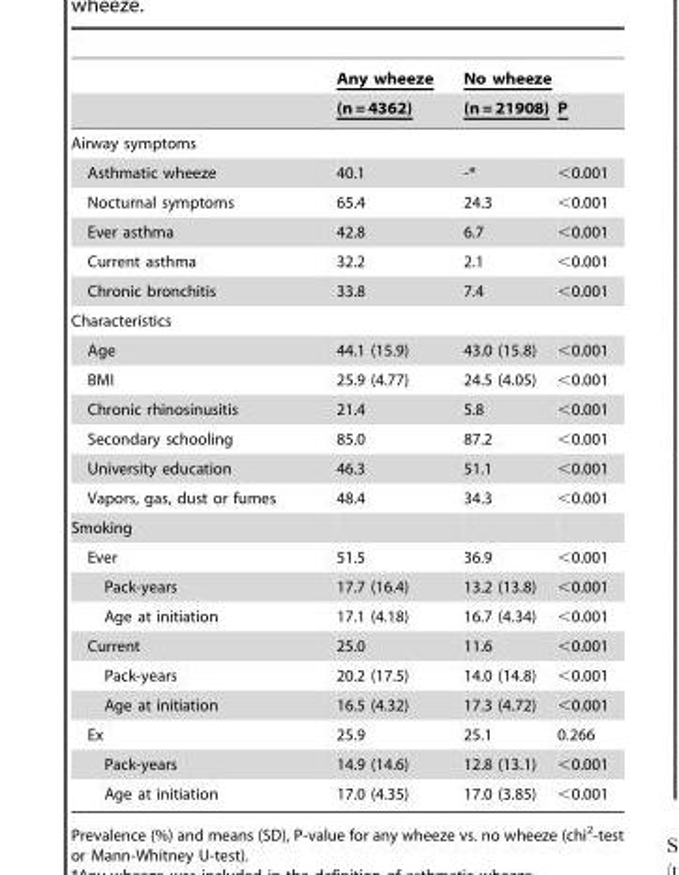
<table><thead><tr><td rowspan="2"></td><td rowspan="2">Any wheeze (n = 4362)</td><td rowspan="2">No wheeze (n = 21908)</td><td rowspan="2">P</td></tr><tr></tr></thead><tbody><tr><td colspan="4">Airway symptoms</td></tr><tr><td>Asthmatic wheeze</td><td>40.1</td><td>-*</td><td>&lt;0.001</td></tr><tr><td>Nocturnal symptoms</td><td>65.4</td><td>24.3</td><td>&lt;0.001</td></tr><tr><td>Ever asthma</td><td>42.8</td><td>6.7</td><td>&lt;0.001</td></tr><tr><td>Current asthma</td><td>32.2</td><td>2.1</td><td>&lt;0.001</td></tr><tr><td>Chronic bronchitis</td><td>33.8</td><td>7.4</td><td>&lt;0.001</td></tr><tr><td colspan="4">Characteristics</td></tr><tr><td>Age</td><td>44.1 (15.9)</td><td>43.0 (15.8)</td><td>&lt;0.001</td></tr><tr><td>BMI</td><td>25.9 (4.77)</td><td>24.5 (4.05)</td><td>&lt;0.001</td></tr><tr><td>Chronic rhinosinusitis</td><td>21.4</td><td>5.8</td><td>&lt;0.001</td></tr><tr><td>Secondary schooling</td><td>85.0</td><td>87.2</td><td>&lt;0.001</td></tr><tr><td>University education</td><td>46.3</td><td>51.1</td><td>&lt;0.001</td></tr><tr><td>Vapors, gas, dust or fumes</td><td>48.4</td><td>34.3</td><td>&lt;0.001</td></tr><tr><td colspan="4">Smoking</td></tr><tr><td>Ever</td><td>51.5</td><td>36.9</td><td>&lt;0.001</td></tr><tr><td>Pack-years</td><td>17.7 (16.4)</td><td>13.2 (13.8)</td><td>&lt;0.001</td></tr><tr><td>Age at initiation</td><td>17.1 (4.18)</td><td>16.7 (4.34)</td><td>&lt;0.001</td></tr><tr><td>Current</td><td>25.0</td><td>11.6</td><td>&lt;0.001</td></tr><tr><td>Pack-years</td><td>20.2 (17.5)</td><td>14.0 (14.8)</td><td>&lt;0.001</td></tr><tr><td>Age at initiation</td><td>16.5 (4.32)</td><td>17.3 (4.72)</td><td>&lt;0.001</td></tr><tr><td>Ex</td><td>25.9</td><td>25.1</td><td>0.266</td></tr><tr><td>Pack-years</td><td>14.9 (14.6)</td><td>12.8 (13.1)</td><td>&lt;0.001</td></tr><tr><td>Age at initiation</td><td>17.0 (4.35)</td><td>17.0 (3.85)</td><td>&lt;0.001</td></tr></tbody></table>